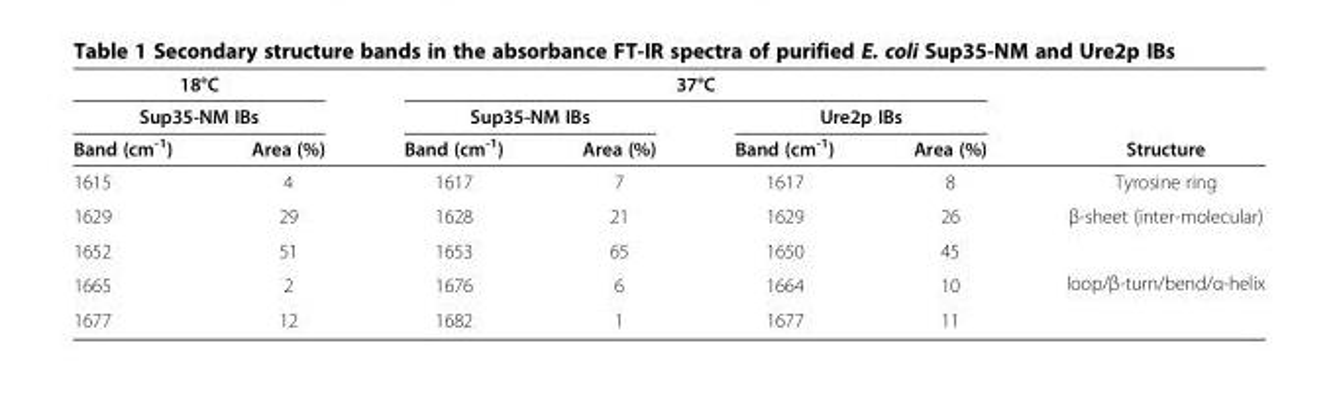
<table><thead><tr><td rowspan="2" colspan="2">18°C Sup35-NM IBs</td><td colspan="4">37°C</td><td rowspan="3">Structure</td></tr><tr><td colspan="2">Sup35-NM IBs</td><td colspan="2">Ure2p IBs</td></tr><tr><td>Band (cm<sup>-1</sup>)</td><td>Area (%)</td><td>Band (cm<sup>-1</sup>)</td><td>Area (%)</td><td>Band (cm<sup>-1</sup>)</td><td>Area (%)</td></tr></thead><tbody><tr><td>1615</td><td>4</td><td>1617</td><td>7</td><td>1617</td><td>8</td><td>Tyrosine ring</td></tr><tr><td>1629</td><td>29</td><td>1628</td><td>21</td><td>1629</td><td>26</td><td>β-sheet (inter-molecular)</td></tr><tr><td>1652</td><td>51</td><td>1653</td><td>65</td><td>1650</td><td>45</td><td rowspan="2">loop/β-turn/bend/α-helix</td></tr><tr><td>1665</td><td>2</td><td>1676</td><td>6</td><td>1664</td><td>10</td></tr><tr><td>1677</td><td>12</td><td>1682</td><td>1</td><td>1677</td><td>11</td><td></td></tr></tbody></table>